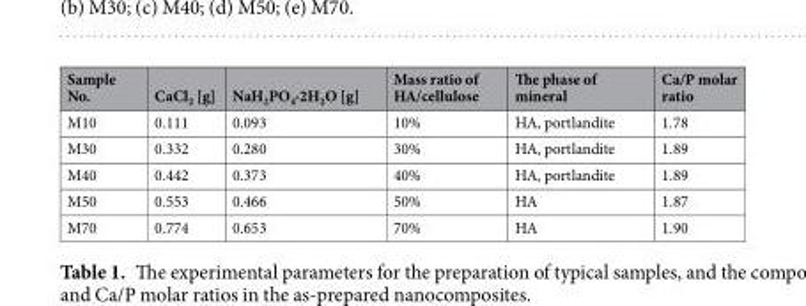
<table><thead><tr><td>Sample No.</td><td>CaCl<sub>2</sub> [g]</td><td>NaH<sub>2</sub>PO<sub>4</sub>·2H<sub>2</sub>O [g]</td><td>Mass ratio of HA/cellulose</td><td>The phase of mineral</td><td>Ca/P molar ratio</td></tr></thead><tbody><tr><td>M10</td><td>0.111</td><td>0.093</td><td>10%</td><td>HA, portlandite</td><td>1.78</td></tr><tr><td>M30</td><td>0.332</td><td>0.280</td><td>30%</td><td>HA, portlandite</td><td>1.89</td></tr><tr><td>M40</td><td>0.442</td><td>0.373</td><td>40%</td><td>HA, portlandite</td><td>1.89</td></tr><tr><td>M50</td><td>0.553</td><td>0.466</td><td>50%</td><td>HA</td><td>1.87</td></tr><tr><td>M70</td><td>0.774</td><td>0.653</td><td>70%</td><td>HA</td><td>1.90</td></tr></tbody></table>